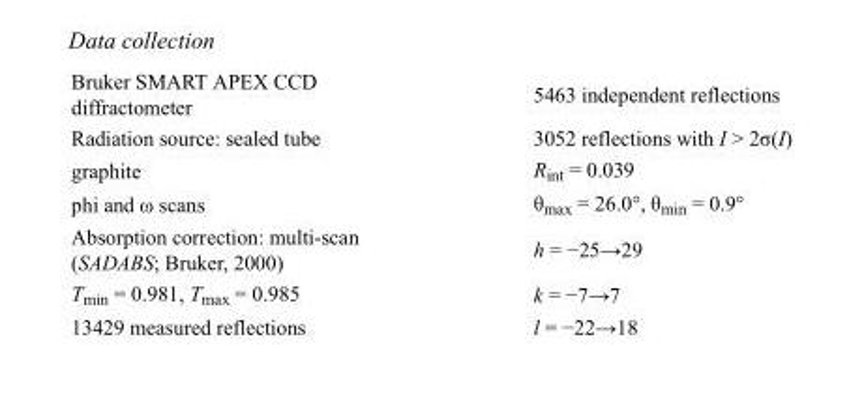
<table><tbody><tr><td>Bruker SMART APEX CCD diffractometer</td><td>5463 independent reflections</td></tr><tr><td>Radiation source: sealed tube</td><td>3052 reflections with I &gt; 2σ(I)</td></tr><tr><td>graphite</td><td>R<sub>int</sub> = 0.039</td></tr><tr><td>phi and ω scans</td><td>θ<sub>max</sub> = 26.0°, θ<sub>min</sub> = 0.9°</td></tr><tr><td>Absorption correction: multi-scan (SADABS; Bruker, 2000)</td><td>h = −25→29</td></tr><tr><td>T<sub>min</sub> = 0.981, T<sub>max</sub> = 0.985</td><td>k = −7→7</td></tr><tr><td>13429 measured reflections</td><td>l = −22→18</td></tr></tbody></table>